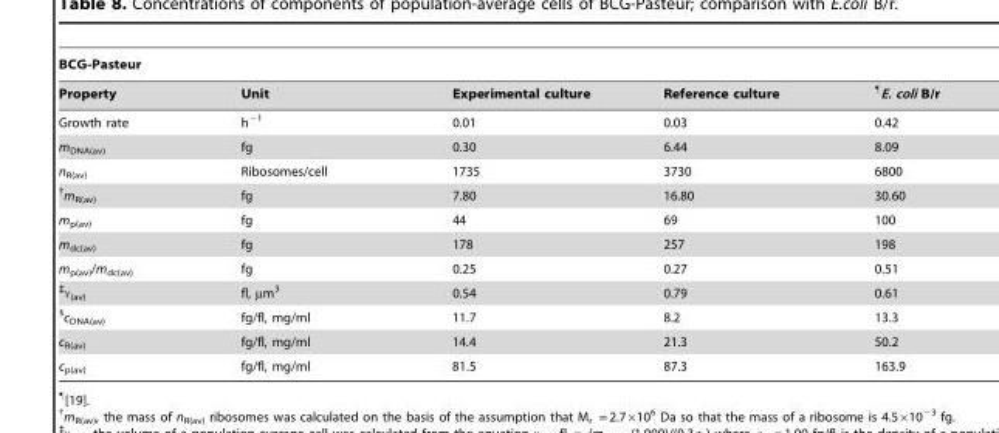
<table><thead><tr><td colspan="5">BCG-Pasteur</td></tr><tr><td>Property</td><td>Unit</td><td>Experimental culture</td><td>Reference culture</td><td>¶E. coli B/r</td></tr></thead><tbody><tr><td>Growth rate</td><td>h<sup>−1</sup></td><td>0.01</td><td>0.03</td><td>0.42</td></tr><tr><td>m<sub>DNA(av)</sub></td><td>fg</td><td>0.30</td><td>6.44</td><td>8.09</td></tr><tr><td>n<sub>R(av)</sub></td><td>Ribosomes/cell</td><td>1735</td><td>3730</td><td>6800</td></tr><tr><td>†m<sub>R(av)</sub></td><td>fg</td><td>7.80</td><td>16.80</td><td>30.60</td></tr><tr><td>m<sub>p(av)</sub></td><td>fg</td><td>44</td><td>69</td><td>100</td></tr><tr><td>m<sub>dc(av)</sub></td><td>fg</td><td>178</td><td>257</td><td>198</td></tr><tr><td>m<sub>p(av)</sub>/m<sub>dc(av)</sub></td><td>fg</td><td>0.25</td><td>0.27</td><td>0.51</td></tr><tr><td>‡ν<sub>(av)</sub></td><td>fl, µm<sup>3</sup></td><td>0.54</td><td>0.79</td><td>0.61</td></tr><tr><td>§c<sub>DNA(av)</sub></td><td>fg/fl, mg/ml</td><td>11.7</td><td>8.2</td><td>13.3</td></tr><tr><td>c<sub>R(av)</sub></td><td>fg/fl, mg/ml</td><td>14.4</td><td>21.3</td><td>50.2</td></tr><tr><td>c<sub>p(av)</sub></td><td>fg/fl, mg/ml</td><td>81.5</td><td>87.3</td><td>163.9</td></tr></tbody></table>